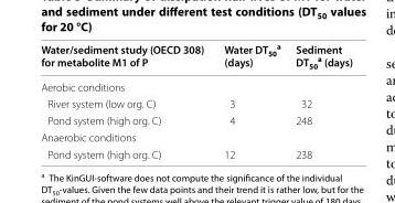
<table><thead><tr><td>Water/sediment study (OECD 308) for metabolite M1 of P</td><td>Water DT<sub>50</sub> <sup>a</sup> (days)</td><td>Sediment DT<sub>50</sub> <sup>a</sup> (days)</td></tr></thead><tbody><tr><td colspan="3">Aerobic conditions</td></tr><tr><td>River system (low org. C)</td><td>3</td><td>32</td></tr><tr><td>Pond system (high org. C)</td><td>4</td><td>248</td></tr><tr><td colspan="3">Anaerobic conditions</td></tr><tr><td>Pond system (high org. C)</td><td>12</td><td>238</td></tr></tbody></table>